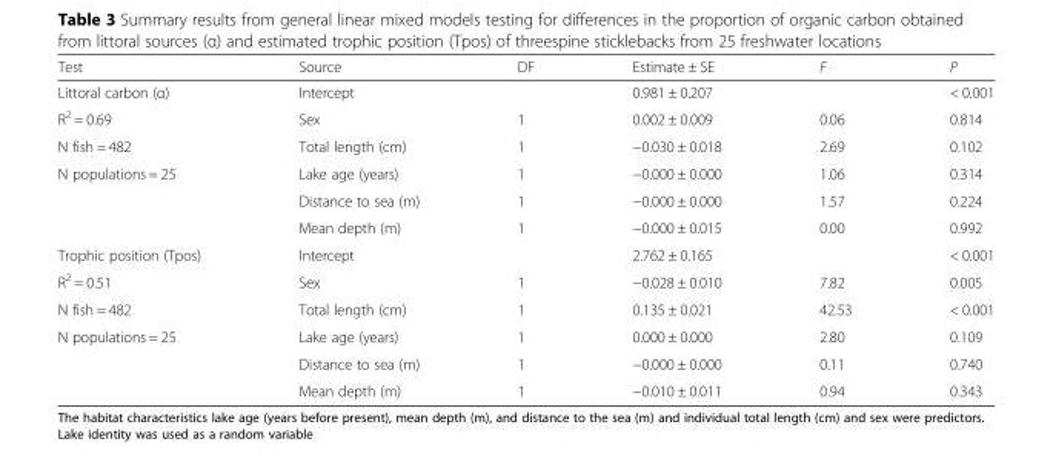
<table><thead><tr><td>Test</td><td>Source</td><td>DF</td><td>Estimate ± SE</td><td>F</td><td>P</td></tr></thead><tbody><tr><td>Littoral carbon (α)</td><td>Intercept</td><td></td><td>0.981 ± 0.207</td><td></td><td>&lt; 0.001</td></tr><tr><td>R<sup>2</sup> = 0.69</td><td>Sex</td><td>1</td><td>0.002 ± 0.009</td><td>0.06</td><td>0.814</td></tr><tr><td>N fish = 482</td><td>Total length (cm)</td><td>1</td><td>−0.030 ± 0.018</td><td>2.69</td><td>0.102</td></tr><tr><td rowspan="3">N populations = 25</td><td>Lake age (years)</td><td>1</td><td>−0.000 ± 0.000</td><td>1.06</td><td>0.314</td></tr><tr><td>Distance to sea (m)</td><td>1</td><td>−0.000 ± 0.000</td><td>1.57</td><td>0.224</td></tr><tr><td>Mean depth (m)</td><td>1</td><td>−0.000 ± 0.015</td><td>0.00</td><td>0.992</td></tr><tr><td>Trophic position (Tpos)</td><td>Intercept</td><td></td><td>2.762 ± 0.165</td><td></td><td>&lt; 0.001</td></tr><tr><td>R<sup>2</sup> = 0.51</td><td>Sex</td><td>1</td><td>−0.028 ± 0.010</td><td>7.82</td><td>0.005</td></tr><tr><td>N fish = 482</td><td>Total length (cm)</td><td>1</td><td>0.135 ± 0.021</td><td>42.53</td><td>&lt; 0.001</td></tr><tr><td rowspan="3">N populations = 25</td><td>Lake age (years)</td><td>1</td><td>0.000 ± 0.000</td><td>2.80</td><td>0.109</td></tr><tr><td>Distance to sea (m)</td><td>1</td><td>−0.000 ± 0.000</td><td>0.11</td><td>0.740</td></tr><tr><td>Mean depth (m)</td><td>1</td><td>−0.010 ± 0.011</td><td>0.94</td><td>0.343</td></tr></tbody></table>